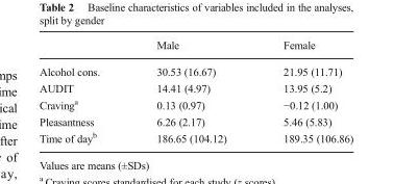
<table><thead><tr><td></td><td>Male</td><td>Female</td></tr></thead><tbody><tr><td>Alcohol cons.</td><td>30.53 (16.67)</td><td>21.95 (11.71)</td></tr><tr><td>AUDIT</td><td>14.41 (4.97)</td><td>13.95 (5.2)</td></tr><tr><td>Craving<sup>a</sup></td><td>0.13 (0.97)</td><td>−0.12 (1.00)</td></tr><tr><td>Pleasantness</td><td>6.26 (2.17)</td><td>5.46 (5.83)</td></tr><tr><td>Time of day<sup>b</sup></td><td>186.65 (104.12)</td><td>189.35 (106.86)</td></tr></tbody></table>